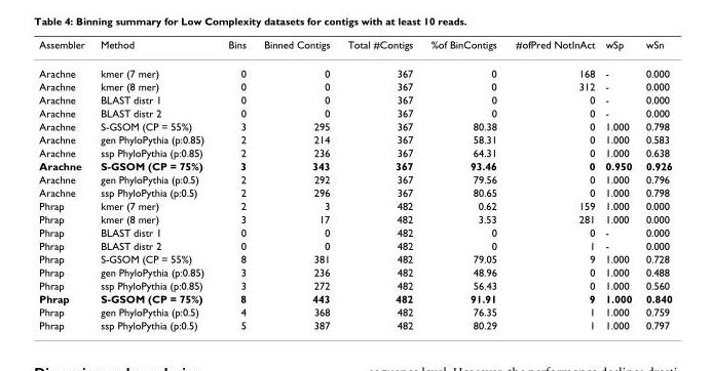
<table><thead><tr><td>Assembler</td><td>Method</td><td>Bins</td><td>Binned Contigs</td><td>Total #Contigs</td><td>%of BinContigs</td><td>#ofPred NotInAct</td><td>wSp</td><td>wSn</td></tr></thead><tbody><tr><td>Arachne</td><td>kmer (7 mer)</td><td>0</td><td>0</td><td>367</td><td>0</td><td>168</td><td>-</td><td>0.000</td></tr><tr><td>Arachne</td><td>kmer (8 mer)</td><td>0</td><td>0</td><td>367</td><td>0</td><td>312</td><td>-</td><td>0.000</td></tr><tr><td>Arachne</td><td>BLAST distr 1</td><td>0</td><td>0</td><td>367</td><td>0</td><td>0</td><td>-</td><td>0.000</td></tr><tr><td>Arachne</td><td>BLAST distr 2</td><td>0</td><td>0</td><td>367</td><td>0</td><td>0</td><td>-</td><td>0.000</td></tr><tr><td>Arachne</td><td>S-GSOM (CP = 55%)</td><td>3</td><td>295</td><td>367</td><td>80.38</td><td>0</td><td>1.000</td><td>0.798</td></tr><tr><td>Arachne</td><td>gen PhyloPythia (p:0.85)</td><td>2</td><td>214</td><td>367</td><td>58.31</td><td>0</td><td>1.000</td><td>0.583</td></tr><tr><td>Arachne</td><td>ssp PhyloPythia (p:0.85)</td><td>2</td><td>236</td><td>367</td><td>64.31</td><td>0</td><td>1.000</td><td>0.638</td></tr><tr><td>Arachne</td><td>S-GSOM (CP = 75%)</td><td>3</td><td>343</td><td>367</td><td>93.46</td><td>0</td><td>0.950</td><td>0.926</td></tr><tr><td>Arachne</td><td>gen PhyloPythia (p:0.5)</td><td>2</td><td>292</td><td>367</td><td>79.56</td><td>0</td><td>1.000</td><td>0.796</td></tr><tr><td>Arachne</td><td>ssp PhyloPythia (p:0.5)</td><td>2</td><td>296</td><td>367</td><td>80.65</td><td>0</td><td>1.000</td><td>0.798</td></tr><tr><td>Phrap</td><td>kmer (7 mer)</td><td>2</td><td>3</td><td>482</td><td>0.62</td><td>159</td><td>1.000</td><td>0.000</td></tr><tr><td>Phrap</td><td>kmer (8 mer)</td><td>3</td><td>17</td><td>482</td><td>3.53</td><td>281</td><td>1.000</td><td>0.000</td></tr><tr><td>Phrap</td><td>BLAST distr 1</td><td>0</td><td>0</td><td>482</td><td>0</td><td>0</td><td>-</td><td>0.000</td></tr><tr><td>Phrap</td><td>BLAST distr 2</td><td>0</td><td>0</td><td>482</td><td>0</td><td>1</td><td>-</td><td>0.000</td></tr><tr><td>Phrap</td><td>S-GSOM (CP = 55%)</td><td>8</td><td>381</td><td>482</td><td>79.05</td><td>9</td><td>1.000</td><td>0.728</td></tr><tr><td>Phrap</td><td>gen PhyloPythia (p:0.85)</td><td>3</td><td>236</td><td>482</td><td>48.96</td><td>0</td><td>1.000</td><td>0.488</td></tr><tr><td>Phrap</td><td>ssp PhyloPythia (p:0.85)</td><td>3</td><td>272</td><td>482</td><td>56.43</td><td>0</td><td>1.000</td><td>0.560</td></tr><tr><td>Phrap</td><td>S-GSOM (CP = 75%)</td><td>8</td><td>443</td><td>482</td><td>91.91</td><td>9</td><td>1.000</td><td>0.840</td></tr><tr><td>Phrap</td><td>gen PhyloPythia (p:0.5)</td><td>4</td><td>368</td><td>482</td><td>76.35</td><td>1</td><td>1.000</td><td>0.759</td></tr><tr><td>Phrap</td><td>ssp PhyloPythia (p:0.5)</td><td>5</td><td>387</td><td>482</td><td>80.29</td><td>1</td><td>1.000</td><td>0.797</td></tr></tbody></table>